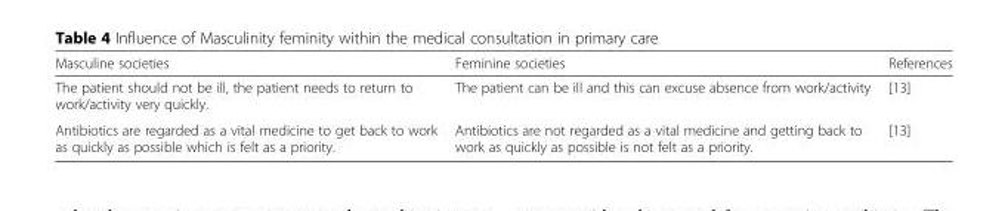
<table><thead><tr><td>Masculine societies</td><td>Feminine societies</td><td>References</td></tr></thead><tbody><tr><td>The patient should not be ill, the patient needs to return to work/activity very quickly.</td><td>The patient can be ill and this can excuse absence from work/activity</td><td>[13]</td></tr><tr><td>Antibiotics are regarded as a vital medicine to get back to work as quickly as possible which is felt as a priority.</td><td>Antibiotics are not regarded as a vital medicine and getting back to work as quickly as possible is not felt as a priority.</td><td>[13]</td></tr></tbody></table>